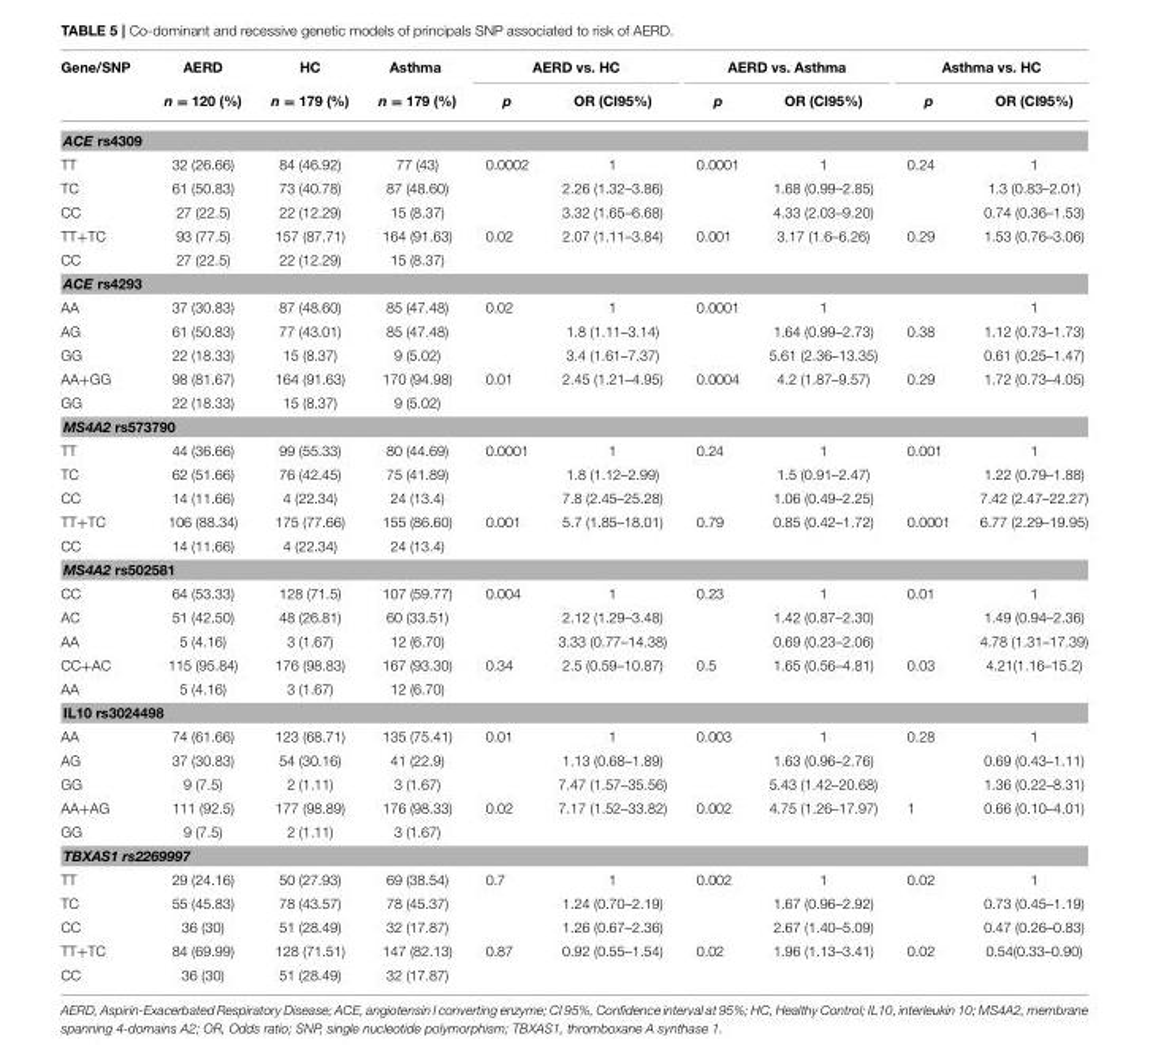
<table><thead><tr><td rowspan="2">Gene/SNP</td><td rowspan="2">AERD n = 120 (%)</td><td rowspan="2">HC n = 179 (%)</td><td rowspan="2">Asthma n = 179 (%)</td><td colspan="2">AERD vs. HC</td><td colspan="2">AERD vs. Asthma</td><td colspan="2">Asthma vs. HC</td></tr><tr><td>p</td><td>OR (CI95%)</td><td>p</td><td>OR (CI95%)</td><td>p</td><td>OR (CI95%)</td></tr></thead><tbody><tr><td colspan="10">ACE rs4309</td></tr><tr><td>TT</td><td>32 (26.66)</td><td>84 (46.92)</td><td>77 (43)</td><td>0.0002</td><td>1</td><td>0.0001</td><td>1</td><td>0.24</td><td>1</td></tr><tr><td>TC</td><td>61 (50.83)</td><td>73 (40.78)</td><td>87 (48.60)</td><td></td><td>2.26 (1.32–3.86)</td><td></td><td>1.68 (0.99–2.85)</td><td></td><td>1.3 (0.83–2.01)</td></tr><tr><td>CC</td><td>27 (22.5)</td><td>22 (12.29)</td><td>15 (8.37)</td><td></td><td>3.32 (1.65–6.68)</td><td></td><td>4.33 (2.03–9.20)</td><td></td><td>0.74 (0.36–1.53)</td></tr><tr><td>TT+TC</td><td>93 (77.5)</td><td>157 (87.71)</td><td>164 (91.63)</td><td>0.02</td><td>2.07 (1.11–3.84)</td><td>0.001</td><td>3.17 (1.6–6.26)</td><td>0.29</td><td>1.53 (0.76–3.06)</td></tr><tr><td>CC</td><td>27 (22.5)</td><td>22 (12.29)</td><td>15 (8.37)</td><td></td><td></td><td></td><td></td><td></td><td></td></tr><tr><td colspan="10">ACE rs4293</td></tr><tr><td>AA</td><td>37 (30.83)</td><td>87 (48.60)</td><td>85 (47.48)</td><td>0.02</td><td>1</td><td>0.0001</td><td>1</td><td></td><td>1</td></tr><tr><td>AG</td><td>61 (50.83)</td><td>77 (43.01)</td><td>85 (47.48)</td><td></td><td>1.8 (1.11–3.14)</td><td></td><td>1.64 (0.99–2.73)</td><td>0.38</td><td>1.12 (0.73–1.73)</td></tr><tr><td>GG</td><td>22 (18.33)</td><td>15 (8.37)</td><td>9 (5.02)</td><td></td><td>3.4 (1.61–7.37)</td><td></td><td>5.61 (2.36–13.35)</td><td></td><td>0.61 (0.25–1.47)</td></tr><tr><td>AA+GG</td><td>98 (81.67)</td><td>164 (91.63)</td><td>170 (94.98)</td><td>0.01</td><td>2.45 (1.21–4.95)</td><td>0.0004</td><td>4.2 (1.87–9.57)</td><td>0.29</td><td>1.72 (0.73–4.05)</td></tr><tr><td>GG</td><td>22 (18.33)</td><td>15 (8.37)</td><td>9 (5.02)</td><td></td><td></td><td></td><td></td><td></td><td></td></tr><tr><td colspan="10">MS4A2 rs573790</td></tr><tr><td>TT</td><td>44 (36.66)</td><td>99 (55.33)</td><td>80 (44.69)</td><td>0.0001</td><td>1</td><td>0.24</td><td>1</td><td>0.001</td><td>1</td></tr><tr><td>TC</td><td>62 (51.66)</td><td>76 (42.45)</td><td>75 (41.89)</td><td></td><td>1.8 (1.12–2.99)</td><td></td><td>1.5 (0.91–2.47)</td><td></td><td>1.22 (0.79–1.88)</td></tr><tr><td>CC</td><td>14 (11.66)</td><td>4 (22.34)</td><td>24 (13.4)</td><td></td><td>7.8 (2.45–25.28)</td><td></td><td>1.06 (0.49–2.25)</td><td></td><td>7.42 (2.47–22.27)</td></tr><tr><td>TT+TC</td><td>106 (88.34)</td><td>175 (77.66)</td><td>155 (86.60)</td><td>0.001</td><td>5.7 (1.85–18.01)</td><td>0.79</td><td>0.85 (0.42–1.72)</td><td>0.0001</td><td>6.77 (2.29–19.95)</td></tr><tr><td>CC</td><td>14 (11.66)</td><td>4 (22.34)</td><td>24 (13.4)</td><td></td><td></td><td></td><td></td><td></td><td></td></tr><tr><td colspan="10">MS4A2 rs502581</td></tr><tr><td>CC</td><td>64 (53.33)</td><td>128 (71.5)</td><td>107 (59.77)</td><td>0.004</td><td>1</td><td>0.23</td><td>1</td><td>0.01</td><td>1</td></tr><tr><td>AC</td><td>51 (42.50)</td><td>48 (26.81)</td><td>60 (33.51)</td><td></td><td>2.12 (1.29–3.48)</td><td></td><td>1.42 (0.87–2.30)</td><td></td><td>1.49 (0.94–2.36)</td></tr><tr><td>AA</td><td>5 (4.16)</td><td>3 (1.67)</td><td>12 (6.70)</td><td></td><td>3.33 (0.77–14.38)</td><td></td><td>0.69 (0.23–2.06)</td><td></td><td>4.78 (1.31–17.39)</td></tr><tr><td>CC+AC</td><td>115 (95.84)</td><td>176 (98.83)</td><td>167 (93.30)</td><td>0.34</td><td>2.5 (0.59–10.87)</td><td>0.5</td><td>1.65 (0.56–4.81)</td><td>0.03</td><td>4.21(1.16–15.2)</td></tr><tr><td>AA</td><td>5 (4.16)</td><td>3 (1.67)</td><td>12 (6.70)</td><td></td><td></td><td></td><td></td><td></td><td></td></tr><tr><td colspan="10">IL10 rs3024498</td></tr><tr><td>AA</td><td>74 (61.66)</td><td>123 (68.71)</td><td>135 (75.41)</td><td>0.01</td><td>1</td><td>0.003</td><td>1</td><td>0.28</td><td>1</td></tr><tr><td>AG</td><td>37 (30.83)</td><td>54 (30.16)</td><td>41 (22.9)</td><td></td><td>1.13 (0.68–1.89)</td><td></td><td>1.63 (0.96–2.76)</td><td></td><td>0.69 (0.43–1.11)</td></tr><tr><td>GG</td><td>9 (7.5)</td><td>2 (1.11)</td><td>3 (1.67)</td><td></td><td>7.47 (1.57–35.56)</td><td></td><td>5.43 (1.42–20.68)</td><td></td><td>1.36 (0.22–8.31)</td></tr><tr><td>AA+AG</td><td>111 (92.5)</td><td>177 (98.89)</td><td>176 (98.33)</td><td>0.02</td><td>7.17 (1.52–33.82)</td><td>0.002</td><td>4.75 (1.26–17.97)</td><td>1</td><td>0.66 (0.10–4.01)</td></tr><tr><td>GG</td><td>9 (7.5)</td><td>2 (1.11)</td><td>3 (1.67)</td><td></td><td></td><td></td><td></td><td></td><td></td></tr><tr><td colspan="10">TBXAS1 rs2269997</td></tr><tr><td>TT</td><td>29 (24.16)</td><td>50 (27.93)</td><td>69 (38.54)</td><td>0.7</td><td>1</td><td>0.002</td><td>1</td><td>0.02</td><td>1</td></tr><tr><td>TC</td><td>55 (45.83)</td><td>78 (43.57)</td><td>78 (45.37)</td><td></td><td>1.24 (0.70–2.19)</td><td></td><td>1.67 (0.96–2.92)</td><td></td><td>0.73 (0.45–1.19)</td></tr><tr><td>CC</td><td>36 (30)</td><td>51 (28.49)</td><td>32 (17.87)</td><td></td><td>1.26 (0.67–2.36)</td><td></td><td>2.67 (1.40–5.09)</td><td></td><td>0.47 (0.26–0.83)</td></tr><tr><td>TT+TC</td><td>84 (69.99)</td><td>128 (71.51)</td><td>147 (82.13)</td><td>0.87</td><td>0.92 (0.55–1.54)</td><td>0.02</td><td>1.96 (1.13–3.41)</td><td>0.02</td><td>0.54(0.33–0.90)</td></tr><tr><td>CC</td><td>36 (30)</td><td>51 (28.49)</td><td>32 (17.87)</td><td></td><td></td><td></td><td></td><td></td><td></td></tr></tbody></table>